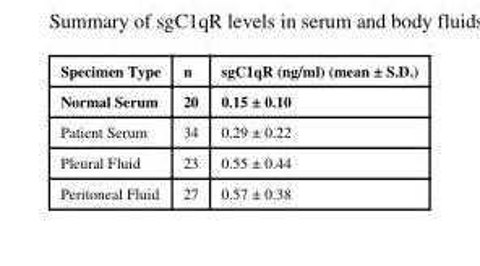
<table><thead><tr><td rowspan="2">Specimen Type Normal Serum</td><td rowspan="2">n 20</td><td rowspan="2">sgC1qR (ng/ml) (mean ± S.D.) 0.15 ± 0.10</td></tr><tr></tr></thead><tbody><tr><td>Patient Serum</td><td>34</td><td>0.29 ± 0.22</td></tr><tr><td>Pleural Fluid</td><td>23</td><td>0.55 ± 0.44</td></tr><tr><td>Peritoneal Fluid</td><td>27</td><td>0.57 ± 0.38</td></tr></tbody></table>